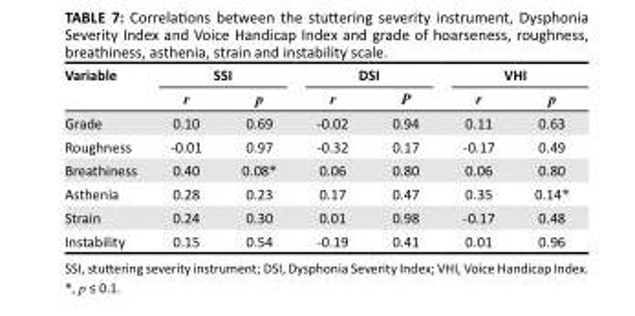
<table><thead><tr><td rowspan="2">Variable</td><td colspan="2">SSI</td><td colspan="2">DSI</td><td colspan="2">VHI</td></tr><tr><td>r</td><td>p</td><td>r</td><td>P</td><td>r</td><td>p</td></tr></thead><tbody><tr><td>Grade</td><td>0.10</td><td>0.69</td><td>-0.02</td><td>0.94</td><td>0.11</td><td>0.63</td></tr><tr><td>Roughness</td><td>-0.01</td><td>0.97</td><td>-0.32</td><td>0.17</td><td>-0.17</td><td>0.49</td></tr><tr><td>Breathiness</td><td>0.40</td><td>0.08*</td><td>0.06</td><td>0.80</td><td>0.06</td><td>0.80</td></tr><tr><td>Asthenia</td><td>0.28</td><td>0.23</td><td>0.17</td><td>0.47</td><td>0.35</td><td>0.14*</td></tr><tr><td>Strain</td><td>0.24</td><td>0.30</td><td>0.01</td><td>0.98</td><td>-0.17</td><td>0.48</td></tr><tr><td>Instability</td><td>0.15</td><td>0.54</td><td>-0.19</td><td>0.41</td><td>0.01</td><td>0.96</td></tr></tbody></table>